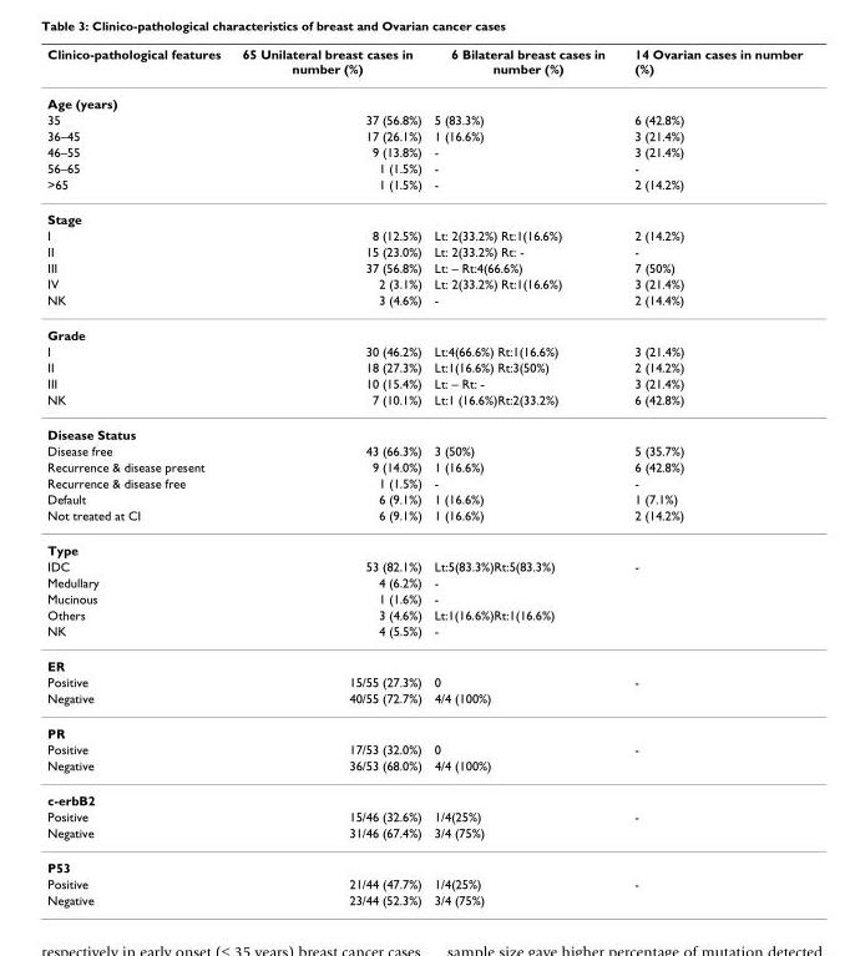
<table><thead><tr><td>Clinico-pathological features</td><td>65 Unilateral breast cases in number (%)</td><td>6 Bilateral breast cases in number (%)</td><td>14 Ovarian cases in number (%)</td></tr></thead><tbody><tr><td colspan="4">Age (years)</td></tr><tr><td>35</td><td>37 (56.8%)</td><td>5 (83.3%)</td><td>6 (42.8%)</td></tr><tr><td>36–45</td><td>17 (26.1%)</td><td>1 (16.6%)</td><td>3 (21.4%)</td></tr><tr><td>46–55</td><td>9 (13.8%)</td><td>-</td><td>3 (21.4%)</td></tr><tr><td>56–65</td><td>1 (1.5%)</td><td>-</td><td>-</td></tr><tr><td>&gt;65</td><td>1 (1.5%)</td><td>-</td><td>2 (14.2%)</td></tr><tr><td colspan="4">Stage</td></tr><tr><td>I</td><td>8 (12.5%)</td><td>Lt: 2(33.2%) Rt:1(16.6%)</td><td>2 (14.2%)</td></tr><tr><td>II</td><td>15 (23.0%)</td><td>Lt: 2(33.2%) Rt: -</td><td>-</td></tr><tr><td>III</td><td>37 (56.8%)</td><td>Lt: – Rt:4(66.6%)</td><td>7 (50%)</td></tr><tr><td>IV</td><td>2 (3.1%)</td><td>Lt: 2(33.2%) Rt:1(16.6%)</td><td>3 (21.4%)</td></tr><tr><td>NK</td><td>3 (4.6%)</td><td>-</td><td>2 (14.4%)</td></tr><tr><td colspan="4">Grade</td></tr><tr><td>I</td><td>30 (46.2%)</td><td>Lt:4(66.6%) Rt:1(16.6%)</td><td>3 (21.4%)</td></tr><tr><td>II</td><td>18 (27.3%)</td><td>Lt:1(16.6%) Rt:3(50%)</td><td>2 (14.2%)</td></tr><tr><td>III</td><td>10 (15.4%)</td><td>Lt: – Rt: -</td><td>3 (21.4%)</td></tr><tr><td>NK</td><td>7 (10.1%)</td><td>Lt:1 (16.6%)Rt:2(33.2%)</td><td>6 (42.8%)</td></tr><tr><td colspan="4">Disease Status</td></tr><tr><td>Disease free</td><td>43 (66.3%)</td><td>3 (50%)</td><td>5 (35.7%)</td></tr><tr><td>Recurrence &amp; disease present</td><td>9 (14.0%)</td><td>1 (16.6%)</td><td>6 (42.8%)</td></tr><tr><td>Recurrence &amp; disease free</td><td>1 (1.5%)</td><td>-</td><td>-</td></tr><tr><td>Default</td><td>6 (9.1%)</td><td>1 (16.6%)</td><td>1 (7.1%)</td></tr><tr><td>Not treated at CI</td><td>6 (9.1%)</td><td>1 (16.6%)</td><td>2 (14.2%)</td></tr><tr><td colspan="4">Type</td></tr><tr><td>IDC</td><td>53 (82.1%)</td><td>Lt:5(83.3%)Rt:5(83.3%)</td><td>-</td></tr><tr><td>Medullary</td><td>4 (6.2%)</td><td>-</td><td></td></tr><tr><td>Mucinous</td><td>1 (1.6%)</td><td>-</td><td></td></tr><tr><td>Others</td><td>3 (4.6%)</td><td>Lt:1(16.6%)Rt:1(16.6%)</td><td></td></tr><tr><td>NK</td><td>4 (5.5%)</td><td>-</td><td></td></tr><tr><td colspan="4">ER</td></tr><tr><td>Positive</td><td>15/55 (27.3%)</td><td>0</td><td>-</td></tr><tr><td>Negative</td><td>40/55 (72.7%)</td><td>4/4 (100%)</td><td></td></tr><tr><td colspan="4">PR</td></tr><tr><td>Positive</td><td>17/53 (32.0%)</td><td>0</td><td>-</td></tr><tr><td>Negative</td><td>36/53 (68.0%)</td><td>4/4 (100%)</td><td></td></tr><tr><td colspan="4">c-erbB2</td></tr><tr><td>Positive</td><td>15/46 (32.6%)</td><td>1/4(25%)</td><td>-</td></tr><tr><td>Negative</td><td>31/46 (67.4%)</td><td>3/4 (75%)</td><td></td></tr><tr><td colspan="4">P53</td></tr><tr><td>Positive</td><td>21/44 (47.7%)</td><td>1/4(25%)</td><td>-</td></tr><tr><td>Negative</td><td>23/44 (52.3%)</td><td>3/4 (75%)</td><td></td></tr></tbody></table>